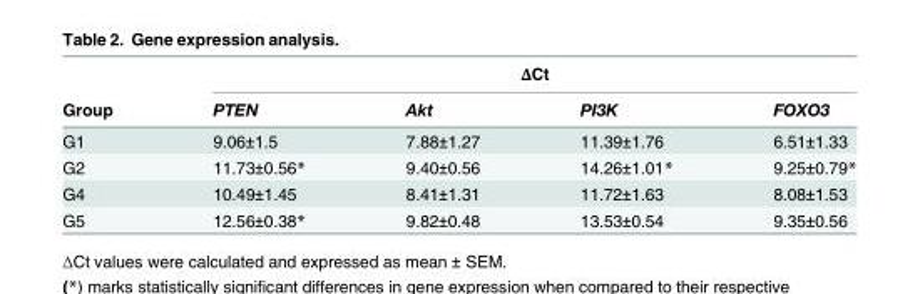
<table><thead><tr><td rowspan="2">Group</td><td colspan="4">ΔCt</td></tr><tr><td>PTEN</td><td>Akt</td><td>PI3K</td><td>FOXO3</td></tr></thead><tbody><tr><td>G1</td><td>9.06±1.5</td><td>7.88±1.27</td><td>11.39±1.76</td><td>6.51±1.33</td></tr><tr><td>G2</td><td>11.73±0.56*</td><td>9.40±0.56</td><td>14.26±1.01*</td><td>9.25±0.79*</td></tr><tr><td>G4</td><td>10.49±1.45</td><td>8.41±1.31</td><td>11.72±1.63</td><td>8.08±1.53</td></tr><tr><td>G5</td><td>12.56±0.38*</td><td>9.82±0.48</td><td>13.53±0.54</td><td>9.35±0.56</td></tr></tbody></table>